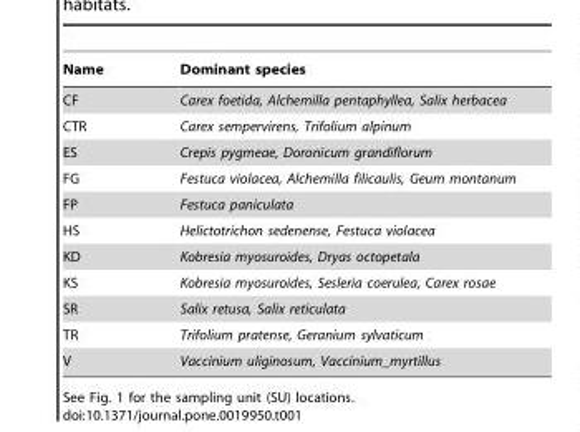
<table><thead><tr><td>Name</td><td>Dominant species</td></tr></thead><tbody><tr><td>CF</td><td>Carex foetida, Alchemilla pentaphyllea, Salix herbacea</td></tr><tr><td>CTR</td><td>Carex sempervirens, Trifolium alpinum</td></tr><tr><td>ES</td><td>Crepis pygmeae, Doronicum grandiflorum</td></tr><tr><td>FG</td><td>Festuca violacea, Alchemilla filicaulis, Geum montanum</td></tr><tr><td>FP</td><td>Festuca paniculata</td></tr><tr><td>HS</td><td>Helictotrichon sedenense, Festuca violacea</td></tr><tr><td>KD</td><td>Kobresia myosuroides, Dryas octopetala</td></tr><tr><td>KS</td><td>Kobresia myosuroides, Sesleria coerulea, Carex rosae</td></tr><tr><td>SR</td><td>Salix retusa, Salix reticulata</td></tr><tr><td>TR</td><td>Trifolium pratense, Geranium sylvaticum</td></tr><tr><td>V</td><td>Vaccinium uliginosum, Vaccinium_myrtillus</td></tr></tbody></table>